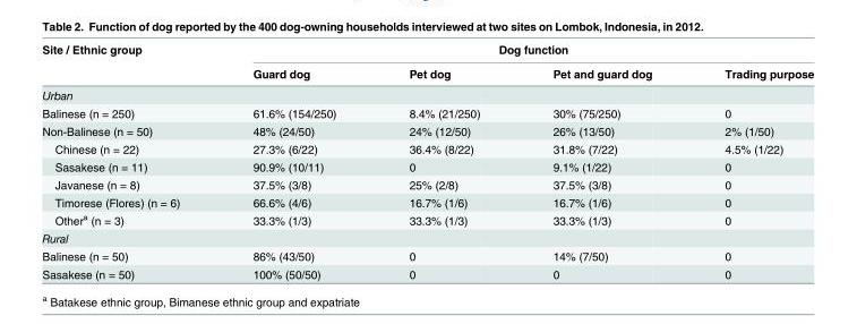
<table><thead><tr><td rowspan="2">Site / Ethnic group</td><td colspan="4">Dog function</td></tr><tr><td>Guard dog</td><td>Pet dog</td><td>Pet and guard dog</td><td>Trading purpose</td></tr></thead><tbody><tr><td colspan="5">Urban</td></tr><tr><td>Balinese (n = 250)</td><td>61.6% (154/250)</td><td>8.4% (21/250)</td><td>30% (75/250)</td><td>0</td></tr><tr><td>Non-Balinese (n = 50)</td><td>48% (24/50)</td><td>24% (12/50)</td><td>26% (13/50)</td><td>2% (1/50)</td></tr><tr><td>Chinese (n = 22)</td><td>27.3% (6/22)</td><td>36.4% (8/22)</td><td>31.8% (7/22)</td><td>4.5% (1/22)</td></tr><tr><td>Sasakese (n = 11)</td><td>90.9% (10/11)</td><td>0</td><td>9.1% (1/22)</td><td>0</td></tr><tr><td>Javanese (n = 8)</td><td>37.5% (3/8)</td><td>25% (2/8)</td><td>37.5% (3/8)</td><td>0</td></tr><tr><td>Timorese (Flores) (n = 6)</td><td>66.6% (4/6)</td><td>16.7% (1/6)</td><td>16.7% (1/6)</td><td>0</td></tr><tr><td>Other<sup>a</sup> (n = 3)</td><td>33.3% (1/3)</td><td>33.3% (1/3)</td><td>33.3% (1/3)</td><td>0</td></tr><tr><td colspan="5">Rural</td></tr><tr><td>Balinese (n = 50)</td><td>86% (43/50)</td><td>0</td><td>14% (7/50)</td><td>0</td></tr><tr><td>Sasakese (n = 50)</td><td>100% (50/50)</td><td>0</td><td>0</td><td>0</td></tr></tbody></table>